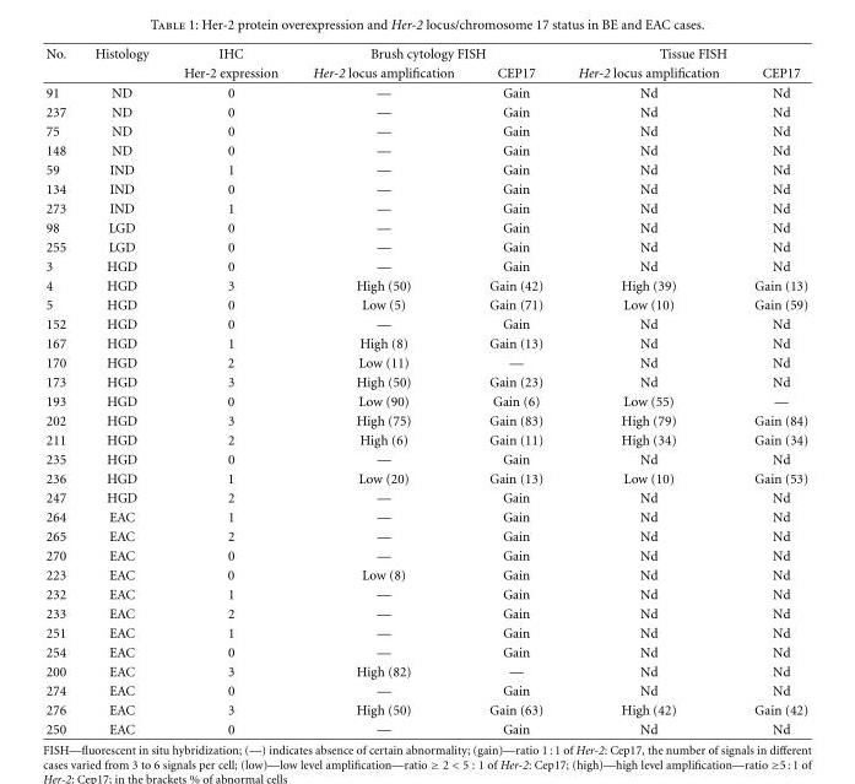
<table><thead><tr><td rowspan="2">No.</td><td rowspan="2">Histology</td><td rowspan="2">IHC Her-2 expression</td><td colspan="2">Brush cytology FISH</td><td colspan="2">Tissue FISH</td></tr><tr><td>Her-2 locus amplification</td><td>CEP17</td><td>Her-2 locus amplification</td><td>CEP17</td></tr></thead><tbody><tr><td>91</td><td>ND</td><td>0</td><td>—</td><td>Gain</td><td>Nd</td><td>Nd</td></tr><tr><td>237</td><td>ND</td><td>0</td><td>—</td><td>Gain</td><td>Nd</td><td>Nd</td></tr><tr><td>75</td><td>ND</td><td>0</td><td>—</td><td>Gain</td><td>Nd</td><td>Nd</td></tr><tr><td>148</td><td>ND</td><td>0</td><td>—</td><td>Gain</td><td>Nd</td><td>Nd</td></tr><tr><td>59</td><td>IND</td><td>1</td><td>—</td><td>Gain</td><td>Nd</td><td>Nd</td></tr><tr><td>134</td><td>IND</td><td>0</td><td>—</td><td>Gain</td><td>Nd</td><td>Nd</td></tr><tr><td>273</td><td>IND</td><td>1</td><td>—</td><td>Gain</td><td>Nd</td><td>Nd</td></tr><tr><td>98</td><td>LGD</td><td>0</td><td>—</td><td>Gain</td><td>Nd</td><td>Nd</td></tr><tr><td>255</td><td>LGD</td><td>0</td><td>—</td><td>Gain</td><td>Nd</td><td>Nd</td></tr><tr><td>3</td><td>HGD</td><td>0</td><td>—</td><td>Gain</td><td>Nd</td><td>Nd</td></tr><tr><td>4</td><td>HGD</td><td>3</td><td>High (50)</td><td>Gain (42)</td><td>High (39)</td><td>Gain (13)</td></tr><tr><td>5</td><td>HGD</td><td>0</td><td>Low (5)</td><td>Gain (71)</td><td>Low (10)</td><td>Gain (59)</td></tr><tr><td>152</td><td>HGD</td><td>0</td><td>—</td><td>Gain</td><td>Nd</td><td>Nd</td></tr><tr><td>167</td><td>HGD</td><td>1</td><td>High (8)</td><td>Gain (13)</td><td>Nd</td><td>Nd</td></tr><tr><td>170</td><td>HGD</td><td>2</td><td>Low (11)</td><td>—</td><td>Nd</td><td>Nd</td></tr><tr><td>173</td><td>HGD</td><td>3</td><td>High (50)</td><td>Gain (23)</td><td>Nd</td><td>Nd</td></tr><tr><td>193</td><td>HGD</td><td>0</td><td>Low (90)</td><td>Gain (6)</td><td>Low (55)</td><td>—</td></tr><tr><td>202</td><td>HGD</td><td>3</td><td>High (75)</td><td>Gain (83)</td><td>High (79)</td><td>Gain (84)</td></tr><tr><td>211</td><td>HGD</td><td>2</td><td>High (6)</td><td>Gain (11)</td><td>High (34)</td><td>Gain (34)</td></tr><tr><td>235</td><td>HGD</td><td>0</td><td>—</td><td>Gain</td><td>Nd</td><td>Nd</td></tr><tr><td>236</td><td>HGD</td><td>1</td><td>Low (20)</td><td>Gain (13)</td><td>Low (10)</td><td>Gain (53)</td></tr><tr><td>247</td><td>HGD</td><td>2</td><td>—</td><td>Gain</td><td>Nd</td><td>Nd</td></tr><tr><td>264</td><td>EAC</td><td>1</td><td>—</td><td>Gain</td><td>Nd</td><td>Nd</td></tr><tr><td>265</td><td>EAC</td><td>2</td><td>—</td><td>Gain</td><td>Nd</td><td>Nd</td></tr><tr><td>270</td><td>EAC</td><td>0</td><td>—</td><td>Gain</td><td>Nd</td><td>Nd</td></tr><tr><td>223</td><td>EAC</td><td>0</td><td>Low (8)</td><td>Gain</td><td>Nd</td><td>Nd</td></tr><tr><td>232</td><td>EAC</td><td>1</td><td>—</td><td>Gain</td><td>Nd</td><td>Nd</td></tr><tr><td>233</td><td>EAC</td><td>2</td><td>—</td><td>Gain</td><td>Nd</td><td>Nd</td></tr><tr><td>251</td><td>EAC</td><td>1</td><td>—</td><td>Gain</td><td>Nd</td><td>Nd</td></tr><tr><td>254</td><td>EAC</td><td>0</td><td>—</td><td>Gain</td><td>Nd</td><td>Nd</td></tr><tr><td>200</td><td>EAC</td><td>3</td><td>High (82)</td><td>—</td><td>Nd</td><td>Nd</td></tr><tr><td>274</td><td>EAC</td><td>0</td><td>—</td><td>Gain</td><td>Nd</td><td>Nd</td></tr><tr><td>276</td><td>EAC</td><td>3</td><td>High (50)</td><td>Gain (63)</td><td>High (42)</td><td>Gain (42)</td></tr><tr><td>250</td><td>EAC</td><td>0</td><td>—</td><td>Gain</td><td>Nd</td><td>Nd</td></tr></tbody></table>